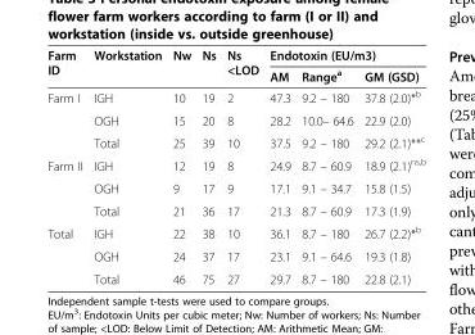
<table><thead><tr><td rowspan="2">Farm ID</td><td rowspan="2">Workstation</td><td rowspan="2">Nw</td><td rowspan="2">Ns</td><td rowspan="2">Ns &lt;LOD</td><td colspan="3">Endotoxin (EU/m3)</td></tr><tr><td>AM</td><td>Range<sup>a</sup></td><td>GM (GSD)</td></tr></thead><tbody><tr><td rowspan="3">Farm I</td><td>IGH</td><td>10</td><td>19</td><td>2</td><td>47.3</td><td>9.2 – 180</td><td>37.8 (2.0)*<sup>b</sup></td></tr><tr><td>OGH</td><td>15</td><td>20</td><td>8</td><td>28.2</td><td>10.0– 64.6</td><td>22.9 (2.0)</td></tr><tr><td>Total</td><td>25</td><td>39</td><td>10</td><td>37.5</td><td>9.2 – 180</td><td>29.2 (2.1)**<sup>c</sup></td></tr><tr><td rowspan="3">Farm II</td><td>IGH</td><td>12</td><td>19</td><td>8</td><td>24.9</td><td>8.7 – 60.9</td><td>18.9 (2.1)<sup>ns,b</sup></td></tr><tr><td>OGH</td><td>9</td><td>17</td><td>9</td><td>17.1</td><td>9.1 – 34.7</td><td>15.8 (1.5)</td></tr><tr><td>Total</td><td>21</td><td>36</td><td>17</td><td>21.3</td><td>8.7 – 60.9</td><td>17.3 (1.9)</td></tr><tr><td rowspan="3">Total</td><td>IGH</td><td>22</td><td>38</td><td>10</td><td>36.1</td><td>8.7 – 180</td><td>26.7 (2.2)*<sup>b</sup></td></tr><tr><td>OGH</td><td>24</td><td>37</td><td>17</td><td>23.1</td><td>9.1 – 64.6</td><td>19.3 (1.8)</td></tr><tr><td>Total</td><td>46</td><td>75</td><td>27</td><td>29.7</td><td>8.7 – 180</td><td>22.8 (2.1)</td></tr></tbody></table>